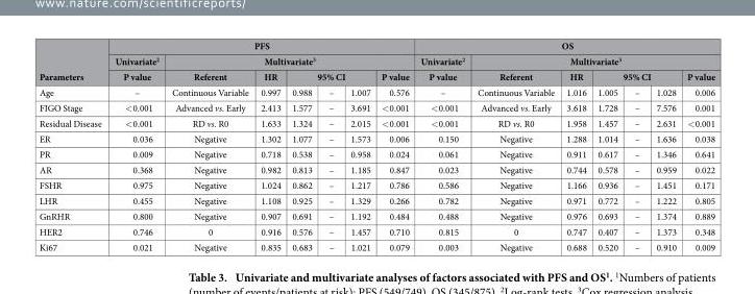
<table><thead><tr><td rowspan="4">Parameters Age</td><td colspan="7">PFS</td><td colspan="7">OS</td></tr><tr><td rowspan="3">Univariate<sup>2</sup> P value –</td><td colspan="6">Multivariate<sup>3</sup></td><td rowspan="3">Univariate<sup>2</sup> P value –</td><td colspan="6">Multivariate<sup>3</sup></td></tr><tr><td rowspan="2">Referent Continuous Variable</td><td rowspan="2">HR 0.997</td><td colspan="3">95% CI</td><td rowspan="2">P value 0.576</td><td rowspan="2">Referent Continuous Variable</td><td rowspan="2">HR 1.016</td><td colspan="3">95% CI</td><td rowspan="2">P value 0.006</td></tr><tr><td>0.988</td><td>–</td><td>1.007</td><td>1.005</td><td>–</td><td>1.028</td></tr></thead><tbody><tr><td>FIGO Stage</td><td>&lt; 0.001</td><td>Advanced vs. Early</td><td>2.413</td><td>1.577</td><td>–</td><td>3.691</td><td>&lt; 0.001</td><td>&lt; 0.001</td><td>Advanced vs. Early</td><td>3.618</td><td>1.728</td><td>–</td><td>7.576</td><td>0.001</td></tr><tr><td>Residual Disease</td><td>&lt; 0.001</td><td>RD vs. R0</td><td>1.633</td><td>1.324</td><td>–</td><td>2.015</td><td>&lt; 0.001</td><td>&lt; 0.001</td><td>RD vs. R0</td><td>1.958</td><td>1.457</td><td>–</td><td>2.631</td><td>&lt; 0.001</td></tr><tr><td>ER</td><td>0.036</td><td>Negative</td><td>1.302</td><td>1.077</td><td>–</td><td>1.573</td><td>0.006</td><td>0.150</td><td>Negative</td><td>1.288</td><td>1.014</td><td>–</td><td>1.636</td><td>0.038</td></tr><tr><td>PR</td><td>0.009</td><td>Negative</td><td>0.718</td><td>0.538</td><td>–</td><td>0.958</td><td>0.024</td><td>0.061</td><td>Negative</td><td>0.911</td><td>0.617</td><td>–</td><td>1.346</td><td>0.641</td></tr><tr><td>AR</td><td>0.368</td><td>Negative</td><td>0.982</td><td>0.813</td><td>–</td><td>1.185</td><td>0.847</td><td>0.023</td><td>Negative</td><td>0.744</td><td>0.578</td><td>–</td><td>0.959</td><td>0.022</td></tr><tr><td>FSHR</td><td>0.975</td><td>Negative</td><td>1.024</td><td>0.862</td><td>–</td><td>1.217</td><td>0.786</td><td>0.586</td><td>Negative</td><td>1.166</td><td>0.936</td><td>–</td><td>1.451</td><td>0.171</td></tr><tr><td>LHR</td><td>0.455</td><td>Negative</td><td>1.108</td><td>0.925</td><td>–</td><td>1.329</td><td>0.266</td><td>0.782</td><td>Negative</td><td>0.971</td><td>0.772</td><td>–</td><td>1.222</td><td>0.805</td></tr><tr><td>GnRHR</td><td>0.800</td><td>Negative</td><td>0.907</td><td>0.691</td><td>–</td><td>1.192</td><td>0.484</td><td>0.488</td><td>Negative</td><td>0.976</td><td>0.693</td><td>–</td><td>1.374</td><td>0.889</td></tr><tr><td>HER2</td><td>0.746</td><td>0</td><td>0.916</td><td>0.576</td><td>–</td><td>1.457</td><td>0.710</td><td>0.815</td><td>0</td><td>0.747</td><td>0.407</td><td>–</td><td>1.373</td><td>0.348</td></tr><tr><td>Ki67</td><td>0.021</td><td>Negative</td><td>0.835</td><td>0.683</td><td>–</td><td>1.021</td><td>0.079</td><td>0.003</td><td>Negative</td><td>0.688</td><td>0.520</td><td>–</td><td>0.910</td><td>0.009</td></tr></tbody></table>